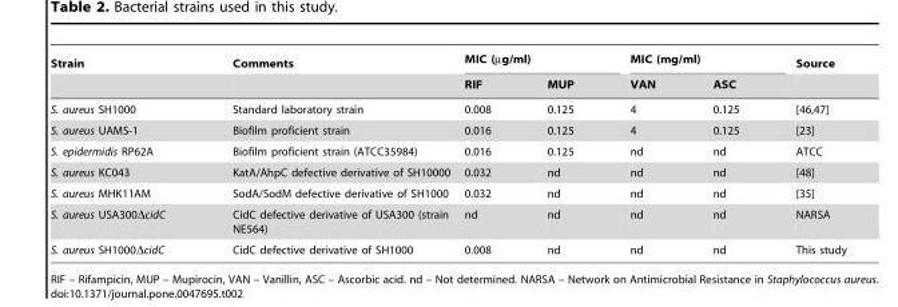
<table><thead><tr><td rowspan="2">Strain</td><td rowspan="2">Comments</td><td colspan="2">MIC (µg/ml)</td><td colspan="2">MIC (mg/ml)</td><td rowspan="2">Source</td></tr><tr><td>RIF</td><td>MUP</td><td>VAN</td><td>ASC</td></tr></thead><tbody><tr><td>S. aureus SH1000</td><td>Standard laboratory strain</td><td>0.008</td><td>0.125</td><td>4</td><td>0.125</td><td>[46,47]</td></tr><tr><td>S. aureus UAMS-1</td><td>Biofilm proficient strain</td><td>0.016</td><td>0.125</td><td>4</td><td>0.125</td><td>[23]</td></tr><tr><td>S. epidermidis RP62A</td><td>Biofilm proficient strain (ATCC35984)</td><td>0.016</td><td>0.125</td><td>nd</td><td>nd</td><td>ATCC</td></tr><tr><td>S. aureus KC043</td><td>KatA/AhpC defective derivative of SH10000</td><td>0.032</td><td>nd</td><td>nd</td><td>nd</td><td>[48]</td></tr><tr><td>S. aureus MHK11AM</td><td>SodA/SodM defective derivative of SH1000</td><td>0.032</td><td>nd</td><td>nd</td><td>nd</td><td>[35]</td></tr><tr><td>S. aureus USA300ΔcidC</td><td>CidC defective derivative of USA300 (strain NE564)</td><td>nd</td><td>nd</td><td>nd</td><td>nd</td><td>NARSA</td></tr><tr><td>S. aureus SH1000ΔcidC</td><td>CidC defective derivative of SH1000</td><td>0.008</td><td>nd</td><td>nd</td><td>nd</td><td>This study</td></tr></tbody></table>